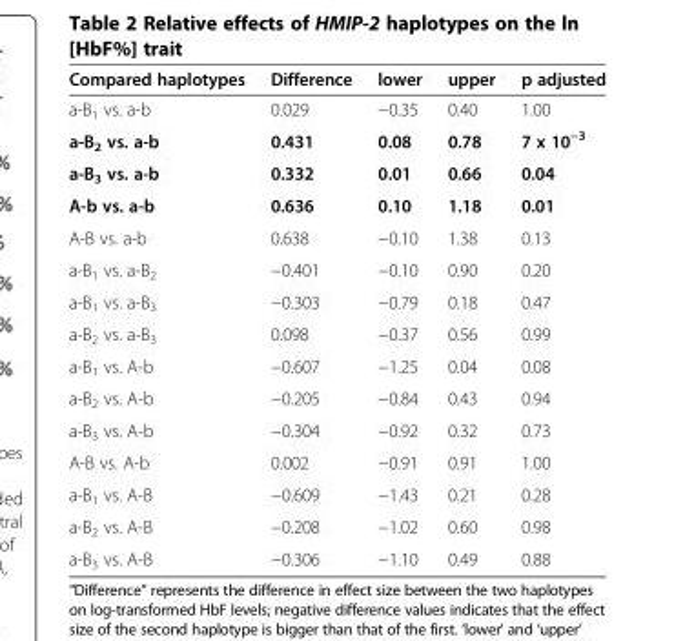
<table><thead><tr><td>Compared haplotypes</td><td>Difference</td><td>lower</td><td>upper</td><td>p adjusted</td></tr></thead><tbody><tr><td>a-B<sub>1</sub> vs. a-b</td><td>0.029</td><td>−0.35</td><td>0.40</td><td>1.00</td></tr><tr><td>a-B<sub>2</sub> vs. a-b</td><td>0.431</td><td>0.08</td><td>0.78</td><td>7 x 10<sup>−3</sup></td></tr><tr><td>a-B<sub>3</sub> vs. a-b</td><td>0.332</td><td>0.01</td><td>0.66</td><td>0.04</td></tr><tr><td>A-b vs. a-b</td><td>0.636</td><td>0.10</td><td>1.18</td><td>0.01</td></tr><tr><td>A-B vs. a-b</td><td>0.638</td><td>−0.10</td><td>1.38</td><td>0.13</td></tr><tr><td>a-B<sub>1</sub> vs. a-B<sub>2</sub></td><td>−0.401</td><td>−0.10</td><td>0.90</td><td>0.20</td></tr><tr><td>a-B<sub>1</sub> vs. a-B<sub>3</sub></td><td>−0.303</td><td>−0.79</td><td>0.18</td><td>0.47</td></tr><tr><td>a-B<sub>2</sub> vs. a-B<sub>3</sub></td><td>0.098</td><td>−0.37</td><td>0.56</td><td>0.99</td></tr><tr><td>a-B<sub>1</sub> vs. A-b</td><td>−0.607</td><td>−1.25</td><td>0.04</td><td>0.08</td></tr><tr><td>a-B<sub>2</sub> vs. A-b</td><td>−0.205</td><td>−0.84</td><td>0.43</td><td>0.94</td></tr><tr><td>a-B<sub>3</sub> vs. A-b</td><td>−0.304</td><td>−0.92</td><td>0.32</td><td>0.73</td></tr><tr><td>A-B vs. A-b</td><td>0.002</td><td>−0.91</td><td>0.91</td><td>1.00</td></tr><tr><td>a-B<sub>1</sub> vs. A-B</td><td>−0.609</td><td>−1.43</td><td>0.21</td><td>0.28</td></tr><tr><td>a-B<sub>2</sub> vs. A-B</td><td>−0.208</td><td>−1.02</td><td>0.60</td><td>0.98</td></tr><tr><td>a-B<sub>3</sub> vs. A-B</td><td>−0.306</td><td>−1.10</td><td>0.49</td><td>0.88</td></tr></tbody></table>